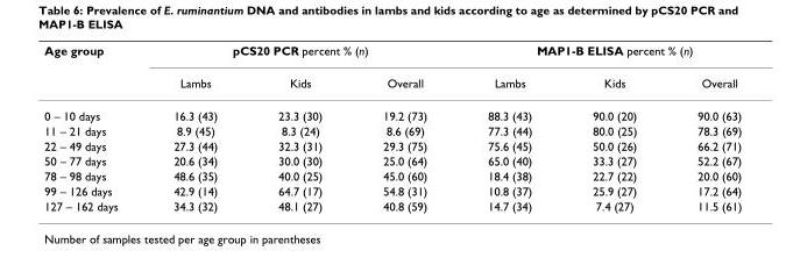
<table><thead><tr><td rowspan="2">Age group</td><td colspan="3">pCS20 PCR percent % (n)</td><td colspan="3">MAP1-B ELISA percent % (n)</td></tr><tr><td>Lambs</td><td>Kids</td><td>Overall</td><td>Lambs</td><td>Kids</td><td>Overall</td></tr></thead><tbody><tr><td>0 – 10 days</td><td>16.3 (43)</td><td>23.3 (30)</td><td>19.2 (73)</td><td>88.3 (43)</td><td>90.0 (20)</td><td>90.0 (63)</td></tr><tr><td>11 – 21 days</td><td>8.9 (45)</td><td>8.3 (24)</td><td>8.6 (69)</td><td>77.3 (44)</td><td>80.0 (25)</td><td>78.3 (69)</td></tr><tr><td>22 – 49 days</td><td>27.3 (44)</td><td>32.3 (31)</td><td>29.3 (75)</td><td>75.6 (45)</td><td>50.0 (26)</td><td>66.2 (71)</td></tr><tr><td>50 – 77 days</td><td>20.6 (34)</td><td>30.0 (30)</td><td>25.0 (64)</td><td>65.0 (40)</td><td>33.3 (27)</td><td>52.2 (67)</td></tr><tr><td>78 – 98 days</td><td>48.6 (35)</td><td>40.0 (25)</td><td>45.0 (60)</td><td>18.4 (38)</td><td>22.7 (22)</td><td>20.0 (60)</td></tr><tr><td>99 – 126 days</td><td>42.9 (14)</td><td>64.7 (17)</td><td>54.8 (31)</td><td>10.8 (37)</td><td>25.9 (27)</td><td>17.2 (64)</td></tr><tr><td>127 – 162 days</td><td>34.3 (32)</td><td>48.1 (27)</td><td>40.8 (59)</td><td>14.7 (34)</td><td>7.4 (27)</td><td>11.5 (61)</td></tr></tbody></table>